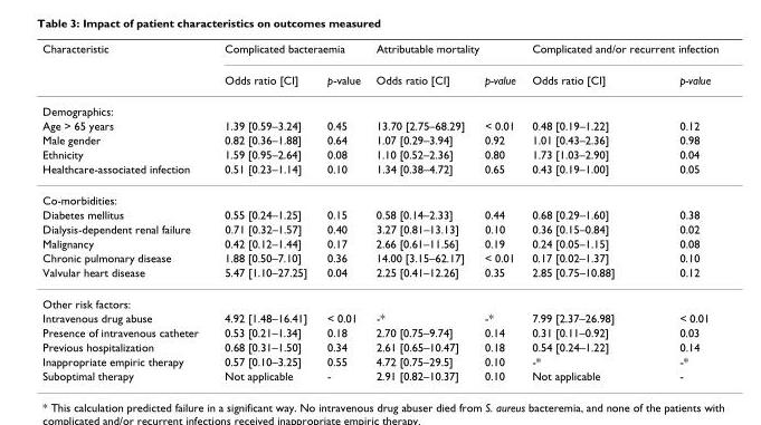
<table><thead><tr><td rowspan="2">Characteristic</td><td colspan="2">Complicated bacteraemia</td><td colspan="2">Attributable mortality</td><td colspan="2">Complicated and/or recurrent infection</td></tr><tr><td>Odds ratio [CI]</td><td>p-value</td><td>Odds ratio [CI]</td><td>p-value</td><td>Odds ratio [CI]</td><td>p-value</td></tr></thead><tbody><tr><td colspan="7">Demographics:</td></tr><tr><td>Age &gt; 65 years</td><td>1.39 [0.59–3.24]</td><td>0.45</td><td>13.70 [2.75–68.29]</td><td>&lt; 0.01</td><td>0.48 [0.19–1.22]</td><td>0.12</td></tr><tr><td>Male gender</td><td>0.82 [0.36–1.88]</td><td>0.64</td><td>1.07 [0.29–3.94]</td><td>0.92</td><td>1.01 [0.43–2.36]</td><td>0.98</td></tr><tr><td>Ethnicity</td><td>1.59 [0.95–2.64]</td><td>0.08</td><td>1.10 [0.52–2.36]</td><td>0.80</td><td>1.73 [1.03–2.90]</td><td>0.04</td></tr><tr><td>Healthcare-associated infection</td><td>0.51 [0.23–1.14]</td><td>0.10</td><td>1.34 [0.38–4.72]</td><td>0.65</td><td>0.43 [0.19–1.00]</td><td>0.05</td></tr><tr><td colspan="7">Co-morbidities:</td></tr><tr><td>Diabetes mellitus</td><td>0.55 [0.24–1.25]</td><td>0.15</td><td>0.58 [0.14–2.33]</td><td>0.44</td><td>0.68 [0.29–1.60]</td><td>0.38</td></tr><tr><td>Dialysis-dependent renal failure</td><td>0.71 [0.32–1.57]</td><td>0.40</td><td>3.27 [0.81–13.13]</td><td>0.10</td><td>0.36 [0.15–0.84]</td><td>0.02</td></tr><tr><td>Malignancy</td><td>0.42 [0.12–1.44]</td><td>0.17</td><td>2.66 [0.61–11.56]</td><td>0.19</td><td>0.24 [0.05–1.15]</td><td>0.08</td></tr><tr><td>Chronic pulmonary disease</td><td>1.88 [0.50–7.10]</td><td>0.36</td><td>14.00 [3.15–62.17]</td><td>&lt; 0.01</td><td>0.17 [0.02–1.37]</td><td>0.10</td></tr><tr><td>Valvular heart disease</td><td>5.47 [1.10–27.25]</td><td>0.04</td><td>2.25 [0.41–12.26]</td><td>0.35</td><td>2.85 [0.75–10.88]</td><td>0.12</td></tr><tr><td colspan="7">Other risk factors:</td></tr><tr><td>Intravenous drug abuse</td><td>4.92 [1.48–16.41]</td><td>&lt; 0.01</td><td>-*</td><td>-*</td><td>7.99 [2.37–26.98]</td><td>&lt; 0.01</td></tr><tr><td>Presence of intravenous catheter</td><td>0.53 [0.21–1.34]</td><td>0.18</td><td>2.70 [0.75–9.74]</td><td>0.14</td><td>0.31 [0.11–0.92]</td><td>0.03</td></tr><tr><td>Previous hospitalization</td><td>0.68 [0.31–1.50]</td><td>0.34</td><td>2.61 [0.65–10.47]</td><td>0.18</td><td>0.54 [0.24–1.22]</td><td>0.14</td></tr><tr><td>Inappropriate empiric therapy</td><td>0.57 [0.10–3.25]</td><td>0.55</td><td>4.72 [0.75–29.5]</td><td>0.10</td><td>-*</td><td>-*</td></tr><tr><td>Suboptimal therapy</td><td>Not applicable</td><td>-</td><td>2.91 [0.82–10.37]</td><td>0.10</td><td>Not applicable</td><td>-</td></tr></tbody></table>